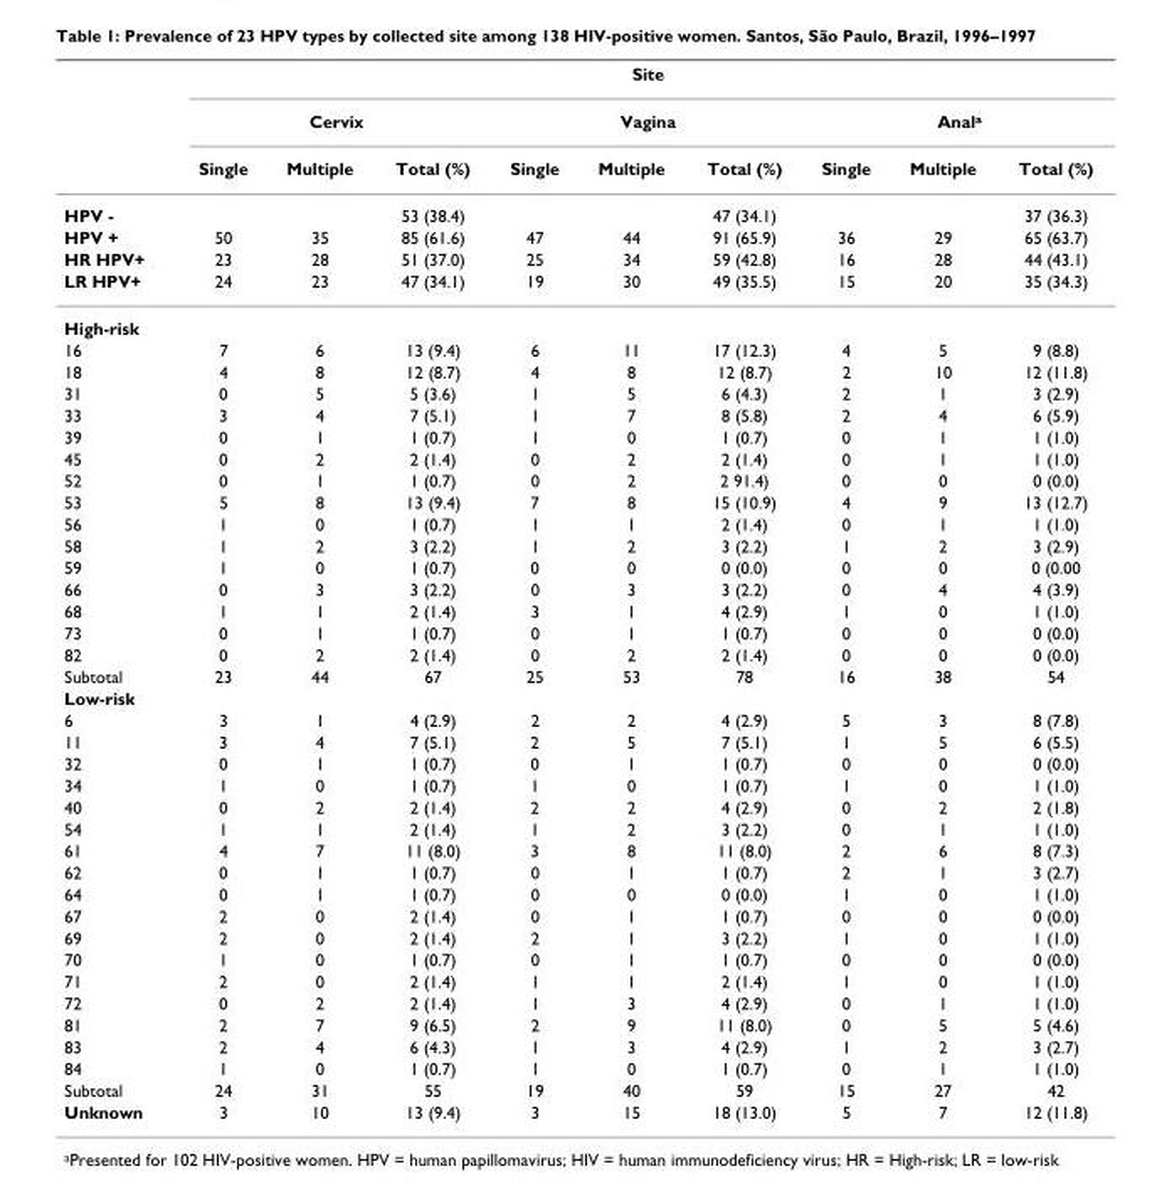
<table><thead><tr><td rowspan="3"></td><td colspan="9">Site</td></tr><tr><td colspan="3">Cervix</td><td colspan="3">Vagina</td><td colspan="3">Anal<sup>a</sup></td></tr><tr><td>Single</td><td>Multiple</td><td>Total (%)</td><td>Single</td><td>Multiple</td><td>Total (%)</td><td>Single</td><td>Multiple</td><td>Total (%)</td></tr></thead><tbody><tr><td>HPV -</td><td></td><td></td><td>53 (38.4)</td><td></td><td></td><td>47 (34.1)</td><td></td><td></td><td>37 (36.3)</td></tr><tr><td>HPV +</td><td>50</td><td>35</td><td>85 (61.6)</td><td>47</td><td>44</td><td>91 (65.9)</td><td>36</td><td>29</td><td>65 (63.7)</td></tr><tr><td>HR HPV+</td><td>23</td><td>28</td><td>51 (37.0)</td><td>25</td><td>34</td><td>59 (42.8)</td><td>16</td><td>28</td><td>44 (43.1)</td></tr><tr><td>LR HPV+</td><td>24</td><td>23</td><td>47 (34.1)</td><td>19</td><td>30</td><td>49 (35.5)</td><td>15</td><td>20</td><td>35 (34.3)</td></tr><tr><td colspan="10">High-risk</td></tr><tr><td>16</td><td>7</td><td>6</td><td>13 (9.4)</td><td>6</td><td>11</td><td>17 (12.3)</td><td>4</td><td>5</td><td>9 (8.8)</td></tr><tr><td>18</td><td>4</td><td>8</td><td>12 (8.7)</td><td>4</td><td>8</td><td>12 (8.7)</td><td>2</td><td>10</td><td>12 (11.8)</td></tr><tr><td>31</td><td>0</td><td>5</td><td>5 (3.6)</td><td>1</td><td>5</td><td>6 (4.3)</td><td>2</td><td>1</td><td>3 (2.9)</td></tr><tr><td>33</td><td>3</td><td>4</td><td>7 (5.1)</td><td>1</td><td>7</td><td>8 (5.8)</td><td>2</td><td>4</td><td>6 (5.9)</td></tr><tr><td>39</td><td>0</td><td>1</td><td>1 (0.7)</td><td>1</td><td>0</td><td>1 (0.7)</td><td>0</td><td>1</td><td>1 (1.0)</td></tr><tr><td>45</td><td>0</td><td>2</td><td>2 (1.4)</td><td>0</td><td>2</td><td>2 (1.4)</td><td>0</td><td>1</td><td>1 (1.0)</td></tr><tr><td>52</td><td>0</td><td>1</td><td>1 (0.7)</td><td>0</td><td>2</td><td>2 91.4)</td><td>0</td><td>0</td><td>0 (0.0)</td></tr><tr><td>53</td><td>5</td><td>8</td><td>13 (9.4)</td><td>7</td><td>8</td><td>15 (10.9)</td><td>4</td><td>9</td><td>13 (12.7)</td></tr><tr><td>56</td><td>1</td><td>0</td><td>1 (0.7)</td><td>1</td><td>1</td><td>2 (1.4)</td><td>0</td><td>1</td><td>1 (1.0)</td></tr><tr><td>58</td><td>1</td><td>2</td><td>3 (2.2)</td><td>1</td><td>2</td><td>3 (2.2)</td><td>1</td><td>2</td><td>3 (2.9)</td></tr><tr><td>59</td><td>1</td><td>0</td><td>1 (0.7)</td><td>0</td><td>0</td><td>0 (0.0)</td><td>0</td><td>0</td><td>0 (0.00</td></tr><tr><td>66</td><td>0</td><td>3</td><td>3 (2.2)</td><td>0</td><td>3</td><td>3 (2.2)</td><td>0</td><td>4</td><td>4 (3.9)</td></tr><tr><td>68</td><td>1</td><td>1</td><td>2 (1.4)</td><td>3</td><td>1</td><td>4 (2.9)</td><td>1</td><td>0</td><td>1 (1.0)</td></tr><tr><td>73</td><td>0</td><td>1</td><td>1 (0.7)</td><td>0</td><td>1</td><td>1 (0.7)</td><td>0</td><td>0</td><td>0 (0.0)</td></tr><tr><td>82</td><td>0</td><td>2</td><td>2 (1.4)</td><td>0</td><td>2</td><td>2 (1.4)</td><td>0</td><td>0</td><td>0 (0.0)</td></tr><tr><td>Subtotal</td><td>23</td><td>44</td><td>67</td><td>25</td><td>53</td><td>78</td><td>16</td><td>38</td><td>54</td></tr><tr><td colspan="10">Low-risk</td></tr><tr><td>6</td><td>3</td><td>1</td><td>4 (2.9)</td><td>2</td><td>2</td><td>4 (2.9)</td><td>5</td><td>3</td><td>8 (7.8)</td></tr><tr><td>11</td><td>3</td><td>4</td><td>7 (5.1)</td><td>2</td><td>5</td><td>7 (5.1)</td><td>1</td><td>5</td><td>6 (5.5)</td></tr><tr><td>32</td><td>0</td><td>1</td><td>1 (0.7)</td><td>0</td><td>1</td><td>1 (0.7)</td><td>0</td><td>0</td><td>0 (0.0)</td></tr><tr><td>34</td><td>1</td><td>0</td><td>1 (0.7)</td><td>1</td><td>0</td><td>1 (0.7)</td><td>1</td><td>0</td><td>1 (1.0)</td></tr><tr><td>40</td><td>0</td><td>2</td><td>2 (1.4)</td><td>2</td><td>2</td><td>4 (2.9)</td><td>0</td><td>2</td><td>2 (1.8)</td></tr><tr><td>54</td><td>1</td><td>1</td><td>2 (1.4)</td><td>1</td><td>2</td><td>3 (2.2)</td><td>0</td><td>1</td><td>1 (1.0)</td></tr><tr><td>61</td><td>4</td><td>7</td><td>11 (8.0)</td><td>3</td><td>8</td><td>11 (8.0)</td><td>2</td><td>6</td><td>8 (7.3)</td></tr><tr><td>62</td><td>0</td><td>1</td><td>1 (0.7)</td><td>0</td><td>1</td><td>1 (0.7)</td><td>2</td><td>1</td><td>3 (2.7)</td></tr><tr><td>64</td><td>0</td><td>1</td><td>1 (0.7)</td><td>0</td><td>0</td><td>0 (0.0)</td><td>1</td><td>0</td><td>1 (1.0)</td></tr><tr><td>67</td><td>2</td><td>0</td><td>2 (1.4)</td><td>0</td><td>1</td><td>1 (0.7)</td><td>0</td><td>0</td><td>0 (0.0)</td></tr><tr><td>69</td><td>2</td><td>0</td><td>2 (1.4)</td><td>2</td><td>1</td><td>3 (2.2)</td><td>1</td><td>0</td><td>1 (1.0)</td></tr><tr><td>70</td><td>1</td><td>0</td><td>1 (0.7)</td><td>0</td><td>1</td><td>1 (0.7)</td><td>0</td><td>0</td><td>0 (0.0)</td></tr><tr><td>71</td><td>2</td><td>0</td><td>2 (1.4)</td><td>1</td><td>1</td><td>2 (1.4)</td><td>1</td><td>0</td><td>1 (1.0)</td></tr><tr><td>72</td><td>0</td><td>2</td><td>2 (1.4)</td><td>1</td><td>3</td><td>4 (2.9)</td><td>0</td><td>1</td><td>1 (1.0)</td></tr><tr><td>81</td><td>2</td><td>7</td><td>9 (6.5)</td><td>2</td><td>9</td><td>11 (8.0)</td><td>0</td><td>5</td><td>5 (4.6)</td></tr><tr><td>83</td><td>2</td><td>4</td><td>6 (4.3)</td><td>1</td><td>3</td><td>4 (2.9)</td><td>1</td><td>2</td><td>3 (2.7)</td></tr><tr><td>84</td><td>1</td><td>0</td><td>1 (0.7)</td><td>1</td><td>0</td><td>1 (0.7)</td><td>0</td><td>1</td><td>1 (1.0)</td></tr><tr><td>Subtotal</td><td>24</td><td>31</td><td>55</td><td>19</td><td>40</td><td>59</td><td>15</td><td>27</td><td>42</td></tr><tr><td>Unknown</td><td>3</td><td>10</td><td>13 (9.4)</td><td>3</td><td>15</td><td>18 (13.0)</td><td>5</td><td>7</td><td>12 (11.8)</td></tr></tbody></table>